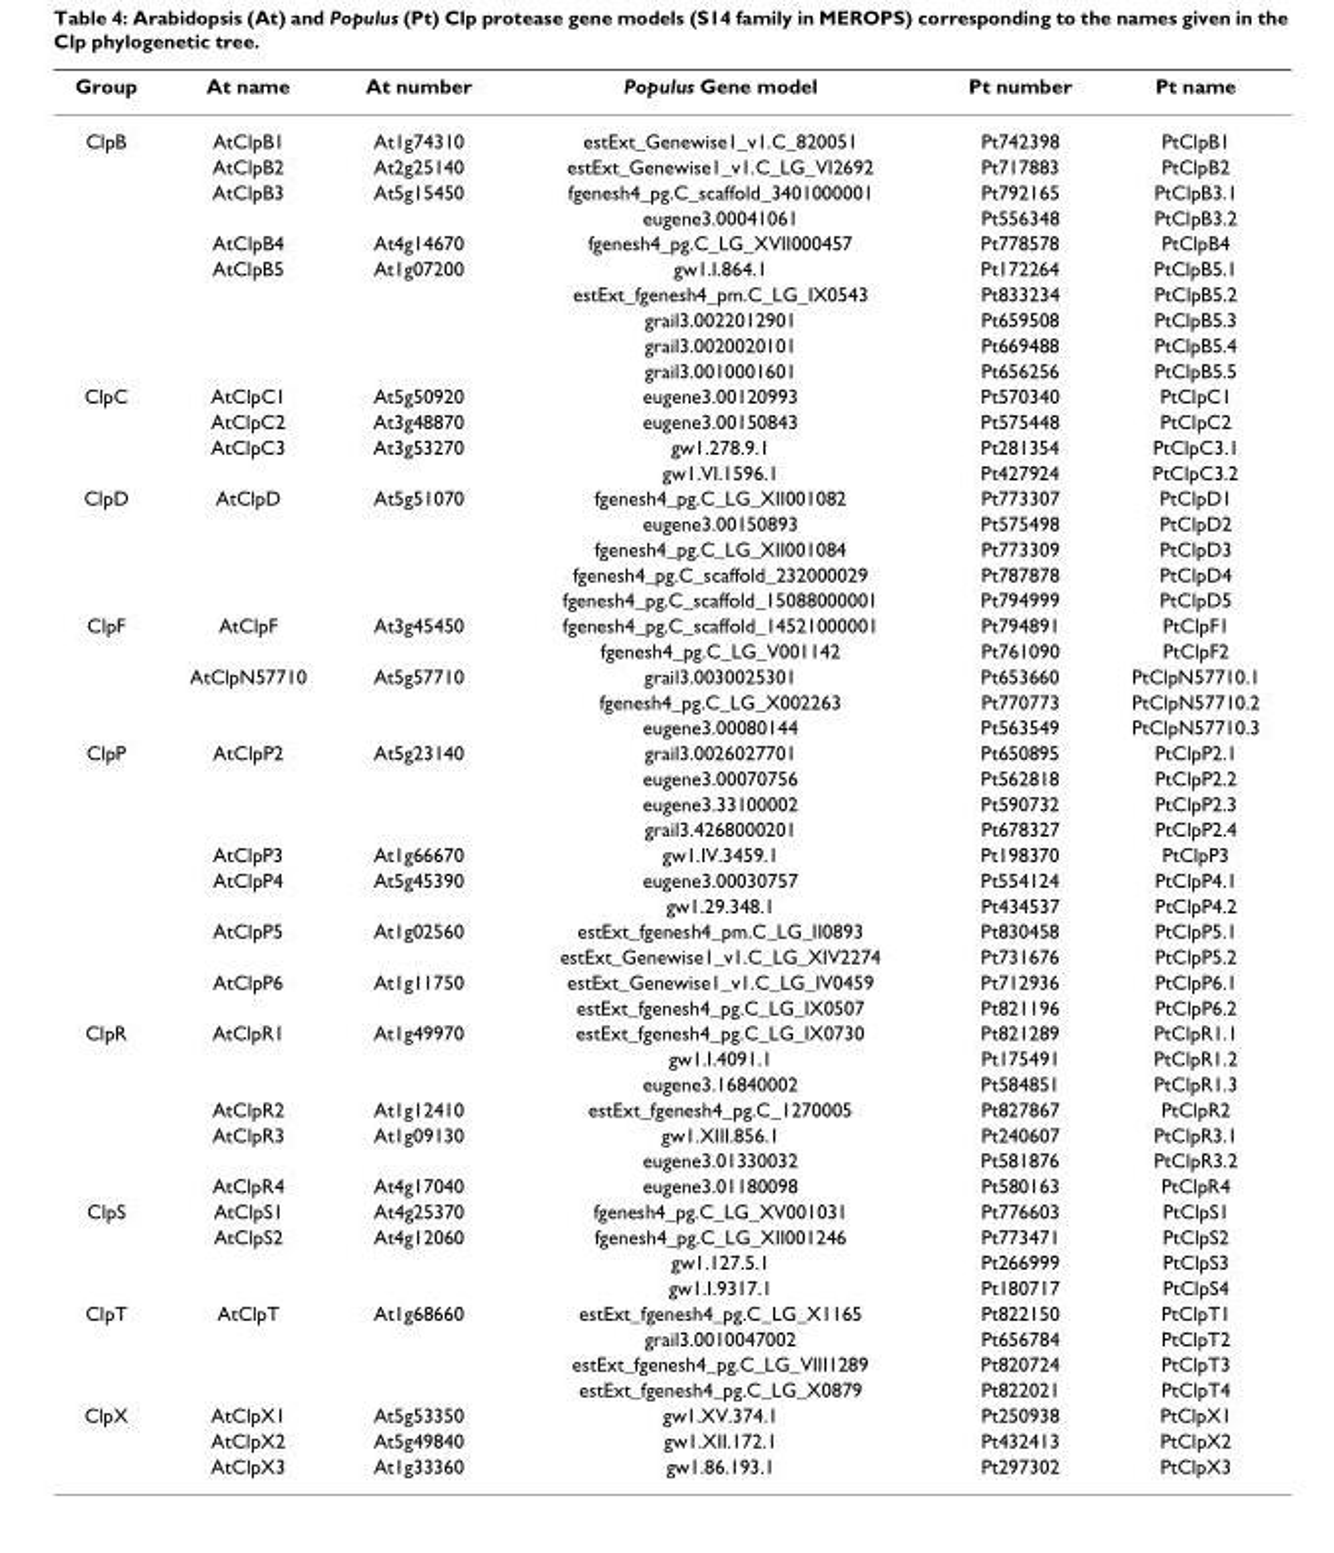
<table><thead><tr><td>Group</td><td>At name</td><td>At number</td><td>Populus Gene model</td><td>Pt number</td><td>Pt name</td></tr></thead><tbody><tr><td rowspan="10">ClpB</td><td>AtClpB1</td><td>At1g74310</td><td>estExt_Genewise1_v1.C_820051</td><td>Pt742398</td><td>PtClpB1</td></tr><tr><td>AtClpB2</td><td>At2g25140</td><td>estExt_Genewise1_v1.C_LG_VI2692</td><td>Pt717883</td><td>PtClpB2</td></tr><tr><td>AtClpB3</td><td>At5g15450</td><td>fgenesh4_pg.C_scaffold_3401000001</td><td>Pt792165</td><td>PtClpB3.1</td></tr><tr><td></td><td></td><td>eugene3.00041061</td><td>Pt556348</td><td>PtClpB3.2</td></tr><tr><td>AtClpB4</td><td>At4g14670</td><td>fgenesh4_pg.C_LG_XVII000457</td><td>Pt778578</td><td>PtClpB4</td></tr><tr><td>AtClpB5</td><td>At1g07200</td><td>gw1.I.864.1</td><td>Pt172264</td><td>PtClpB5.1</td></tr><tr><td></td><td></td><td>estExt_fgenesh4_pm.C_LG_IX0543</td><td>Pt833234</td><td>PtClpB5.2</td></tr><tr><td></td><td></td><td>grail3.0022012901</td><td>Pt659508</td><td>PtClpB5.3</td></tr><tr><td></td><td></td><td>grail3.0020020101</td><td>Pt669488</td><td>PtClpB5.4</td></tr><tr><td></td><td></td><td>grail3.0010001601</td><td>Pt656256</td><td>PtClpB5.5</td></tr><tr><td rowspan="4">ClpC</td><td>AtClpC1</td><td>At5g50920</td><td>eugene3.00120993</td><td>Pt570340</td><td>PtClpC1</td></tr><tr><td>AtClpC2</td><td>At3g48870</td><td>eugene3.00150843</td><td>Pt575448</td><td>PtClpC2</td></tr><tr><td>AtClpC3</td><td>At3g53270</td><td>gw1.278.9.1</td><td>Pt281354</td><td>PtClpC3.1</td></tr><tr><td></td><td></td><td>gw1.VI.1596.1</td><td>Pt427924</td><td>PtClpC3.2</td></tr><tr><td rowspan="5">ClpD</td><td>AtClpD</td><td>At5g51070</td><td>fgenesh4_pg.C_LG_XII001082</td><td>Pt773307</td><td>PtClpD1</td></tr><tr><td></td><td></td><td>eugene3.00150893</td><td>Pt575498</td><td>PtClpD2</td></tr><tr><td></td><td></td><td>fgenesh4_pg.C_LG_XII001084</td><td>Pt773309</td><td>PtClpD3</td></tr><tr><td></td><td></td><td>fgenesh4_pg.C_scaffold_232000029</td><td>Pt787878</td><td>PtClpD4</td></tr><tr><td></td><td></td><td>fgenesh4_pg.C_scaffold_15088000001</td><td>Pt794999</td><td>PtClpD5</td></tr><tr><td rowspan="5">ClpF</td><td>AtClpF</td><td>At3g45450</td><td>fgenesh4_pg.C_scaffold_14521000001</td><td>Pt794891</td><td>PtClpF1</td></tr><tr><td></td><td></td><td>fgenesh4_pg.C_LG_V001142</td><td>Pt761090</td><td>PtClpF2</td></tr><tr><td>AtClpN57710</td><td>At5g57710</td><td>grail3.0030025301</td><td>Pt653660</td><td>PtClpN57710.1</td></tr><tr><td></td><td></td><td>fgenesh4_pg.C_LG_X002263</td><td>Pt770773</td><td>PtClpN57710.2</td></tr><tr><td></td><td></td><td>eugene3.00080144</td><td>Pt563549</td><td>PtClpN57710.3</td></tr><tr><td rowspan="11">ClpP</td><td>AtClpP2</td><td>At5g23140</td><td>grail3.0026027701</td><td>Pt650895</td><td>PtClpP2.1</td></tr><tr><td></td><td></td><td>eugene3.00070756</td><td>Pt562818</td><td>PtClpP2.2</td></tr><tr><td></td><td></td><td>eugene3.33100002</td><td>Pt590732</td><td>PtClpP2.3</td></tr><tr><td></td><td></td><td>grail3.4268000201</td><td>Pt678327</td><td>PtClpP2.4</td></tr><tr><td>AtClpP3</td><td>At1g66670</td><td>gw1.IV.3459.1</td><td>Pt198370</td><td>PtClpP3</td></tr><tr><td>AtClpP4</td><td>At5g45390</td><td>eugene3.00030757</td><td>Pt554124</td><td>PtClpP4.1</td></tr><tr><td></td><td></td><td>gw1.29.348.1</td><td>Pt434537</td><td>PtClpP4.2</td></tr><tr><td>AtClpP5</td><td>At1g02560</td><td>estExt_fgenesh4_pm.C_LG_II0893</td><td>Pt830458</td><td>PtClpP5.1</td></tr><tr><td></td><td></td><td>estExt_Genewise1_v1.C_LG_XIV2274</td><td>Pt731676</td><td>PtClpP5.2</td></tr><tr><td>AtClpP6</td><td>At1g11750</td><td>estExt_Genewise1_v1.C_LG_IV0459</td><td>Pt712936</td><td>PtClpP6.1</td></tr><tr><td></td><td></td><td>estExt_fgenesh4_pg.C_LG_IX0507</td><td>Pt821196</td><td>PtClpP6.2</td></tr><tr><td rowspan="7">ClpR</td><td>AtClpR1</td><td>At1g49970</td><td>estExt_fgenesh4_pg.C_LG_IX0730</td><td>Pt821289</td><td>PtClpR1.1</td></tr><tr><td></td><td></td><td>gw1.I.4091.1</td><td>Pt175491</td><td>PtClpR1.2</td></tr><tr><td></td><td></td><td>eugene3.16840002</td><td>Pt584851</td><td>PtClpR1.3</td></tr><tr><td>AtClpR2</td><td>At1g12410</td><td>estExt_fgenesh4_pg.C_1270005</td><td>Pt827867</td><td>PtClpR2</td></tr><tr><td>AtClpR3</td><td>At1g09130</td><td>gw1.XIII.856.1</td><td>Pt240607</td><td>PtClpR3.1</td></tr><tr><td></td><td></td><td>eugene3.01330032</td><td>Pt581876</td><td>PtClpR3.2</td></tr><tr><td>AtClpR4</td><td>At4g17040</td><td>eugene3.01180098</td><td>Pt580163</td><td>PtClpR4</td></tr><tr><td rowspan="4">ClpS</td><td>AtClpS1</td><td>At4g25370</td><td>fgenesh4_pg.C_LG_XV001031</td><td>Pt776603</td><td>PtClpS1</td></tr><tr><td>AtClpS2</td><td>At4g12060</td><td>fgenesh4_pg.C_LG_XII001246</td><td>Pt773471</td><td>PtClpS2</td></tr><tr><td></td><td></td><td>gw1.127.5.1</td><td>Pt266999</td><td>PtClpS3</td></tr><tr><td></td><td></td><td>gw1.I.9317.1</td><td>Pt180717</td><td>PtClpS4</td></tr><tr><td rowspan="4">ClpT</td><td>AtClpT</td><td>At1g68660</td><td>estExt_fgenesh4_pg.C_LG_X1165</td><td>Pt822150</td><td>PtClpT1</td></tr><tr><td></td><td></td><td>grail3.0010047002</td><td>Pt656784</td><td>PtClpT2</td></tr><tr><td></td><td></td><td>estExt_fgenesh4_pg.C_LG_VIII1289</td><td>Pt820724</td><td>PtClpT3</td></tr><tr><td></td><td></td><td>estExt_fgenesh4_pg.C_LG_X0879</td><td>Pt822021</td><td>PtClpT4</td></tr><tr><td rowspan="3">ClpX</td><td>AtClpX1</td><td>At5g53350</td><td>gw1.XV.374.1</td><td>Pt250938</td><td>PtClpX1</td></tr><tr><td>AtClpX2</td><td>At5g49840</td><td>gw1.XII.172.1</td><td>Pt432413</td><td>PtClpX2</td></tr><tr><td>AtClpX3</td><td>At1g33360</td><td>gw1.86.193.1</td><td>Pt297302</td><td>PtClpX3</td></tr></tbody></table>